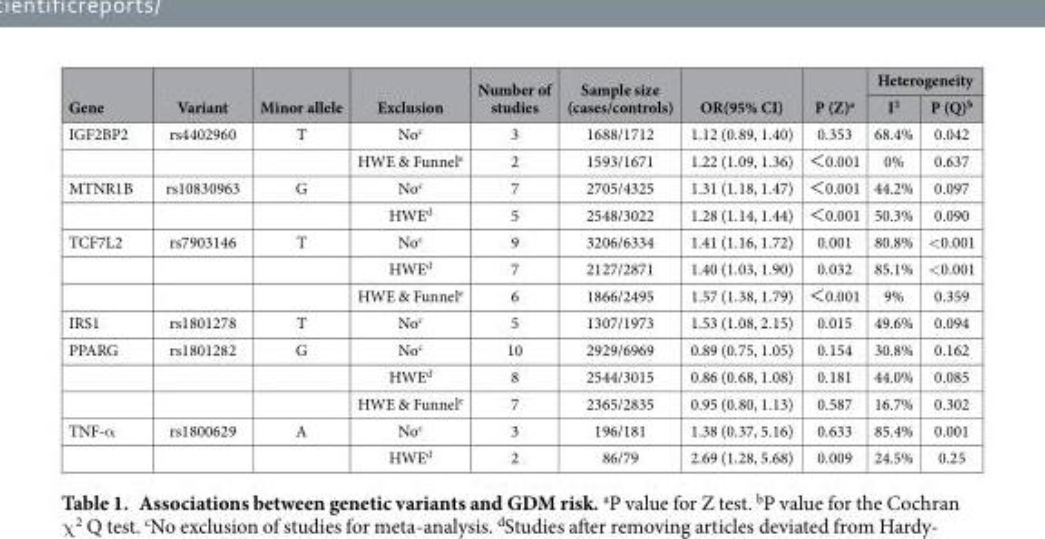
<table><thead><tr><td rowspan="2">Gene</td><td rowspan="2">Variant</td><td rowspan="2">Minor allele</td><td rowspan="2">Exclusion</td><td rowspan="2">Number of studies</td><td rowspan="2">Sample size (cases/controls)</td><td rowspan="2">OR(95% CI)</td><td rowspan="2">P (Z)<sup>a</sup></td><td colspan="2">Heterogeneity</td></tr><tr><td>I<sup>2</sup></td><td>P (Q)<sup>b</sup></td></tr></thead><tbody><tr><td rowspan="2">IGF2BP2</td><td>rs4402960</td><td>T</td><td>No<sup>c</sup></td><td>3</td><td>1688/1712</td><td>1.12 (0.89, 1.40)</td><td>0.353</td><td>68.4%</td><td>0.042</td></tr><tr><td></td><td></td><td>HWE &amp; Funnel<sup>e</sup></td><td>2</td><td>1593/1671</td><td>1.22 (1.09, 1.36)</td><td>＜ 0.001</td><td>0%</td><td>0.637</td></tr><tr><td rowspan="2">MTNR1B</td><td>rs10830963</td><td>G</td><td>No<sup>c</sup></td><td>7</td><td>2705/4325</td><td>1.31 (1.18, 1.47)</td><td>＜ 0.001</td><td>44.2%</td><td>0.097</td></tr><tr><td></td><td></td><td>HWE<sup>d</sup></td><td>5</td><td>2548/3022</td><td>1.28 (1.14, 1.44)</td><td>＜ 0.001</td><td>50.3%</td><td>0.090</td></tr><tr><td rowspan="3">TCF7L2</td><td>rs7903146</td><td>T</td><td>No<sup>c</sup></td><td>9</td><td>3206/6334</td><td>1.41 (1.16, 1.72)</td><td>0.001</td><td>80.8%</td><td>&lt; 0.001</td></tr><tr><td></td><td></td><td>HWE<sup>d</sup></td><td>7</td><td>2127/2871</td><td>1.40 (1.03, 1.90)</td><td>0.032</td><td>85.1%</td><td>&lt; 0.001</td></tr><tr><td></td><td></td><td>HWE &amp; Funnel<sup>e</sup></td><td>6</td><td>1866/2495</td><td>1.57 (1.38, 1.79)</td><td>＜ 0.001</td><td>9%</td><td>0.359</td></tr><tr><td>IRS1</td><td>rs1801278</td><td>T</td><td>No<sup>c</sup></td><td>5</td><td>1307/1973</td><td>1.53 (1.08, 2.15)</td><td>0.015</td><td>49.6%</td><td>0.094</td></tr><tr><td rowspan="3">PPARG</td><td>rs1801282</td><td>G</td><td>No<sup>c</sup></td><td>10</td><td>2929/6969</td><td>0.89 (0.75, 1.05)</td><td>0.154</td><td>30.8%</td><td>0.162</td></tr><tr><td></td><td></td><td>HWE<sup>d</sup></td><td>8</td><td>2544/3015</td><td>0.86 (0.68, 1.08)</td><td>0.181</td><td>44.0%</td><td>0.085</td></tr><tr><td></td><td></td><td>HWE &amp; Funnel<sup>e</sup></td><td>7</td><td>2365/2835</td><td>0.95 (0.80, 1.13)</td><td>0.587</td><td>16.7%</td><td>0.302</td></tr><tr><td rowspan="2">TNF-α</td><td>rs1800629</td><td>A</td><td>No<sup>c</sup></td><td>3</td><td>196/181</td><td>1.38 (0.37, 5.16)</td><td>0.633</td><td>85.4%</td><td>0.001</td></tr><tr><td></td><td></td><td>HWE<sup>d</sup></td><td>2</td><td>86/79</td><td>2.69 (1.28, 5.68)</td><td>0.009</td><td>24.5%</td><td>0.25</td></tr></tbody></table>